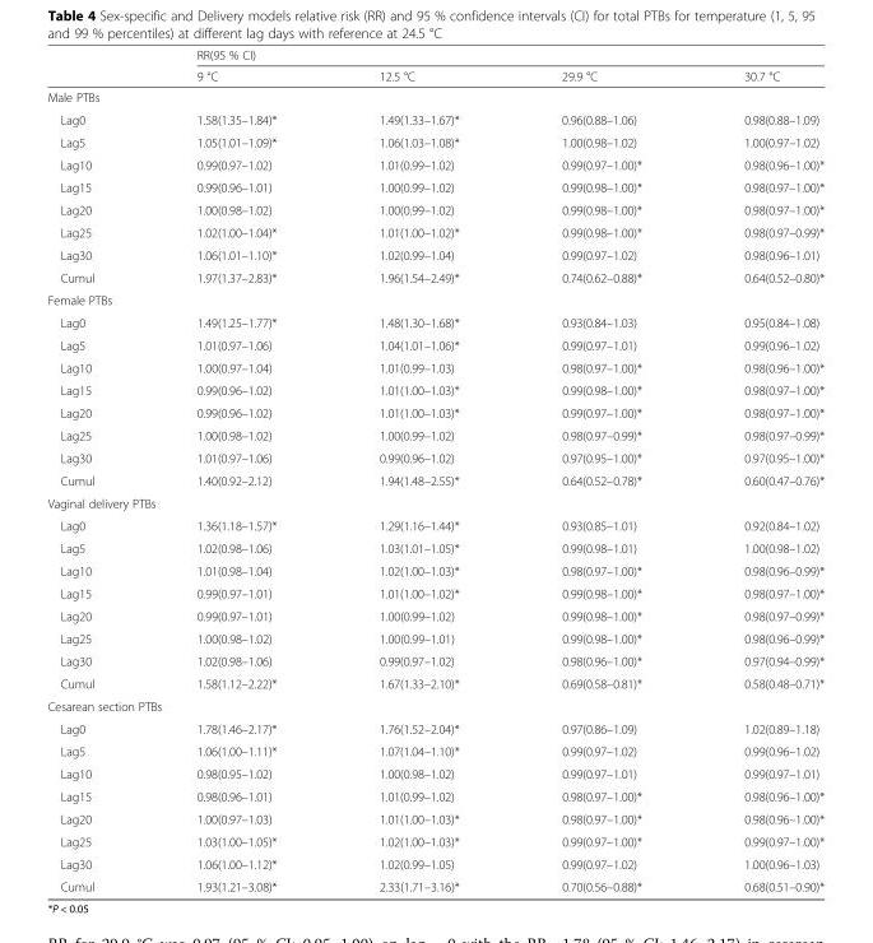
<table><thead><tr><td rowspan="2"></td><td colspan="4">RR(95 % CI)</td></tr><tr><td>9 °C</td><td>12.5 °C</td><td>29.9 °C</td><td>30.7 °C</td></tr></thead><tbody><tr><td colspan="5">Male PTBs</td></tr><tr><td>Lag0</td><td>1.58(1.35–1.84)*</td><td>1.49(1.33–1.67)*</td><td>0.96(0.88–1.06)</td><td>0.98(0.88–1.09)</td></tr><tr><td>Lag5</td><td>1.05(1.01–1.09)*</td><td>1.06(1.03–1.08)*</td><td>1.00(0.98–1.02)</td><td>1.00(0.97–1.02)</td></tr><tr><td>Lag10</td><td>0.99(0.97–1.02)</td><td>1.01(0.99–1.02)</td><td>0.99(0.97–1.00)*</td><td>0.98(0.96–1.00)*</td></tr><tr><td>Lag15</td><td>0.99(0.96–1.01)</td><td>1.00(0.99–1.02)</td><td>0.99(0.98–1.00)*</td><td>0.98(0.97–1.00)*</td></tr><tr><td>Lag20</td><td>1.00(0.98–1.02)</td><td>1.00(0.99–1.02)</td><td>0.99(0.98–1.00)*</td><td>0.98(0.97–1.00)*</td></tr><tr><td>Lag25</td><td>1.02(1.00–1.04)*</td><td>1.01(1.00–1.02)*</td><td>0.99(0.98–1.00)*</td><td>0.98(0.97–0.99)*</td></tr><tr><td>Lag30</td><td>1.06(1.01–1.10)*</td><td>1.02(0.99–1.04)</td><td>0.99(0.97–1.02)</td><td>0.98(0.96–1.01)</td></tr><tr><td>Cumul</td><td>1.97(1.37–2.83)*</td><td>1.96(1.54–2.49)*</td><td>0.74(0.62–0.88)*</td><td>0.64(0.52–0.80)*</td></tr><tr><td colspan="5">Female PTBs</td></tr><tr><td>Lag0</td><td>1.49(1.25–1.77)*</td><td>1.48(1.30–1.68)*</td><td>0.93(0.84–1.03)</td><td>0.95(0.84–1.08)</td></tr><tr><td>Lag5</td><td>1.01(0.97–1.06)</td><td>1.04(1.01–1.06)*</td><td>0.99(0.97–1.01)</td><td>0.99(0.96–1.02)</td></tr><tr><td>Lag10</td><td>1.00(0.97–1.04)</td><td>1.01(0.99–1.03)</td><td>0.98(0.97–1.00)*</td><td>0.98(0.96–1.00)*</td></tr><tr><td>Lag15</td><td>0.99(0.96–1.02)</td><td>1.01(1.00–1.03)*</td><td>0.99(0.98–1.00)*</td><td>0.98(0.97–1.00)*</td></tr><tr><td>Lag20</td><td>0.99(0.96–1.02)</td><td>1.01(1.00–1.03)*</td><td>0.99(0.97–1.00)*</td><td>0.98(0.97–1.00)*</td></tr><tr><td>Lag25</td><td>1.00(0.98–1.02)</td><td>1.00(0.99–1.02)</td><td>0.98(0.97–0.99)*</td><td>0.98(0.97–0.99)*</td></tr><tr><td>Lag30</td><td>1.01(0.97–1.06)</td><td>0.99(0.96–1.02)</td><td>0.97(0.95–1.00)*</td><td>0.97(0.95–1.00)*</td></tr><tr><td>Cumul</td><td>1.40(0.92–2.12)</td><td>1.94(1.48–2.55)*</td><td>0.64(0.52–0.78)*</td><td>0.60(0.47–0.76)*</td></tr><tr><td colspan="5">Vaginal delivery PTBs</td></tr><tr><td>Lag0</td><td>1.36(1.18–1.57)*</td><td>1.29(1.16–1.44)*</td><td>0.93(0.85–1.01)</td><td>0.92(0.84–1.02)</td></tr><tr><td>Lag5</td><td>1.02(0.98–1.06)</td><td>1.03(1.01–1.05)*</td><td>0.99(0.98–1.01)</td><td>1.00(0.98–1.02)</td></tr><tr><td>Lag10</td><td>1.01(0.98–1.04)</td><td>1.02(1.00–1.03)*</td><td>0.98(0.97–1.00)*</td><td>0.98(0.96–0.99)*</td></tr><tr><td>Lag15</td><td>0.99(0.97–1.01)</td><td>1.01(1.00–1.02)*</td><td>0.99(0.98–1.00)*</td><td>0.98(0.97–1.00)*</td></tr><tr><td>Lag20</td><td>0.99(0.97–1.01)</td><td>1.00(0.99–1.02)</td><td>0.99(0.98–1.00)*</td><td>0.98(0.97–0.99)*</td></tr><tr><td>Lag25</td><td>1.00(0.98–1.02)</td><td>1.00(0.99–1.01)</td><td>0.99(0.98–1.00)*</td><td>0.98(0.96–0.99)*</td></tr><tr><td>Lag30</td><td>1.02(0.98–1.06)</td><td>0.99(0.97–1.02)</td><td>0.98(0.96–1.00)*</td><td>0.97(0.94–0.99)*</td></tr><tr><td>Cumul</td><td>1.58(1.12–2.22)*</td><td>1.67(1.33–2.10)*</td><td>0.69(0.58–0.81)*</td><td>0.58(0.48–0.71)*</td></tr><tr><td colspan="5">Cesarean section PTBs</td></tr><tr><td>Lag0</td><td>1.78(1.46–2.17)*</td><td>1.76(1.52–2.04)*</td><td>0.97(0.86–1.09)</td><td>1.02(0.89–1.18)</td></tr><tr><td>Lag5</td><td>1.06(1.00–1.11)*</td><td>1.07(1.04–1.10)*</td><td>0.99(0.97–1.02)</td><td>0.99(0.96–1.02)</td></tr><tr><td>Lag10</td><td>0.98(0.95–1.02)</td><td>1.00(0.98–1.02)</td><td>0.99(0.97–1.01)</td><td>0.99(0.97–1.01)</td></tr><tr><td>Lag15</td><td>0.98(0.96–1.01)</td><td>1.01(0.99–1.02)</td><td>0.98(0.97–1.00)*</td><td>0.98(0.96–1.00)*</td></tr><tr><td>Lag20</td><td>1.00(0.97–1.03)</td><td>1.01(1.00–1.03)*</td><td>0.98(0.97–1.00)*</td><td>0.98(0.96–1.00)*</td></tr><tr><td>Lag25</td><td>1.03(1.00–1.05)*</td><td>1.02(1.00–1.03)*</td><td>0.99(0.97–1.00)*</td><td>0.99(0.97–1.00)*</td></tr><tr><td>Lag30</td><td>1.06(1.00–1.12)*</td><td>1.02(0.99–1.05)</td><td>0.99(0.97–1.02)</td><td>1.00(0.96–1.03)</td></tr><tr><td>Cumul</td><td>1.93(1.21–3.08)*</td><td>2.33(1.71–3.16)*</td><td>0.70(0.56–0.88)*</td><td>0.68(0.51–0.90)*</td></tr></tbody></table>